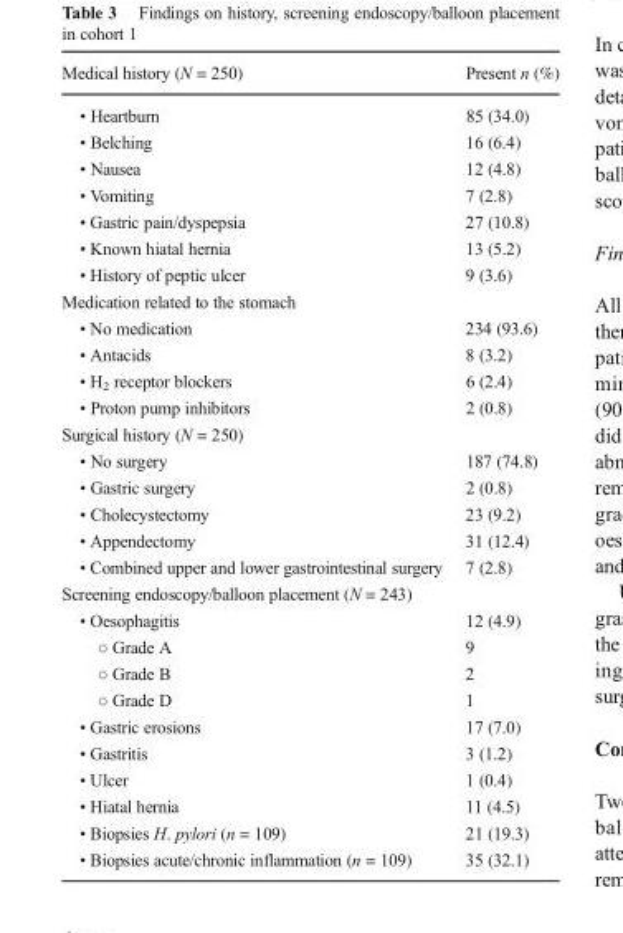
<table><thead><tr><td>Medical history (N = 250)</td><td>Present n (%)</td></tr></thead><tbody><tr><td>• Heartburn</td><td>85 (34.0)</td></tr><tr><td>• Belching</td><td>16 (6.4)</td></tr><tr><td>• Nausea</td><td>12 (4.8)</td></tr><tr><td>• Vomiting</td><td>7 (2.8)</td></tr><tr><td>• Gastric pain/dyspepsia</td><td>27 (10.8)</td></tr><tr><td>• Known hiatal hernia</td><td>13 (5.2)</td></tr><tr><td>• History of peptic ulcer</td><td>9 (3.6)</td></tr><tr><td colspan="2">Medication related to the stomach</td></tr><tr><td>• No medication</td><td>234 (93.6)</td></tr><tr><td>• Antacids</td><td>8 (3.2)</td></tr><tr><td>• H<sub>2</sub> receptor blockers</td><td>6 (2.4)</td></tr><tr><td>• Proton pump inhibitors</td><td>2 (0.8)</td></tr><tr><td colspan="2">Surgical history (N = 250)</td></tr><tr><td>• No surgery</td><td>187 (74.8)</td></tr><tr><td>• Gastric surgery</td><td>2 (0.8)</td></tr><tr><td>• Cholecystectomy</td><td>23 (9.2)</td></tr><tr><td>• Appendectomy</td><td>31 (12.4)</td></tr><tr><td>• Combined upper and lower gastrointestinal surgery</td><td>7 (2.8)</td></tr><tr><td colspan="2">Screening endoscopy/balloon placement (N = 243)</td></tr><tr><td>• Oesophagitis</td><td>12 (4.9)</td></tr><tr><td>○ Grade A</td><td>9</td></tr><tr><td>○ Grade B</td><td>2</td></tr><tr><td>○ Grade D</td><td>1</td></tr><tr><td>• Gastric erosions</td><td>17 (7.0)</td></tr><tr><td>• Gastritis</td><td>3 (1.2)</td></tr><tr><td>• Ulcer</td><td>1 (0.4)</td></tr><tr><td>• Hiatal hernia</td><td>11 (4.5)</td></tr><tr><td>• Biopsies H. pylori (n = 109)</td><td>21 (19.3)</td></tr><tr><td>• Biopsies acute/chronic inflammation (n = 109)</td><td>35 (32.1)</td></tr></tbody></table>